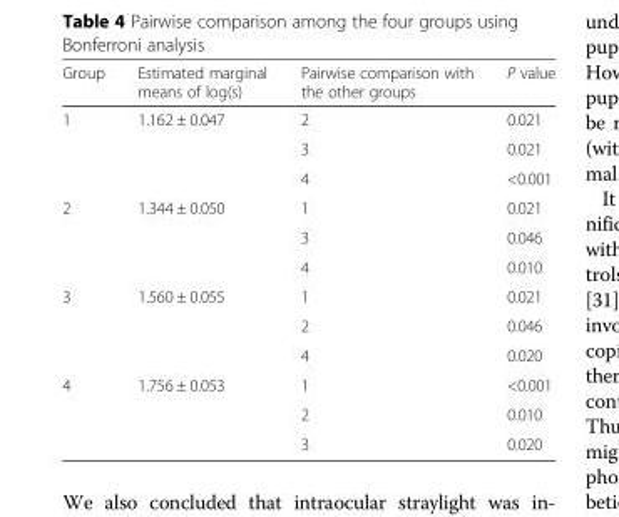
<table><thead><tr><td>Group</td><td>Estimated marginal means of log(s)</td><td>Pairwise comparison with the other groups</td><td>P value</td></tr></thead><tbody><tr><td rowspan="3">1</td><td>1.162 ± 0.047</td><td>2</td><td>0.021</td></tr><tr><td></td><td>3</td><td>0.021</td></tr><tr><td></td><td>4</td><td>&lt;0.001</td></tr><tr><td rowspan="3">2</td><td>1.344 ± 0.050</td><td>1</td><td>0.021</td></tr><tr><td></td><td>3</td><td>0.046</td></tr><tr><td></td><td>4</td><td>0.010</td></tr><tr><td rowspan="3">3</td><td>1.560 ± 0.055</td><td>1</td><td>0.021</td></tr><tr><td></td><td>2</td><td>0.046</td></tr><tr><td></td><td>4</td><td>0.020</td></tr><tr><td rowspan="3">4</td><td>1.756 ± 0.053</td><td>1</td><td>&lt;0.001</td></tr><tr><td></td><td>2</td><td>0.010</td></tr><tr><td></td><td>3</td><td>0.020</td></tr></tbody></table>